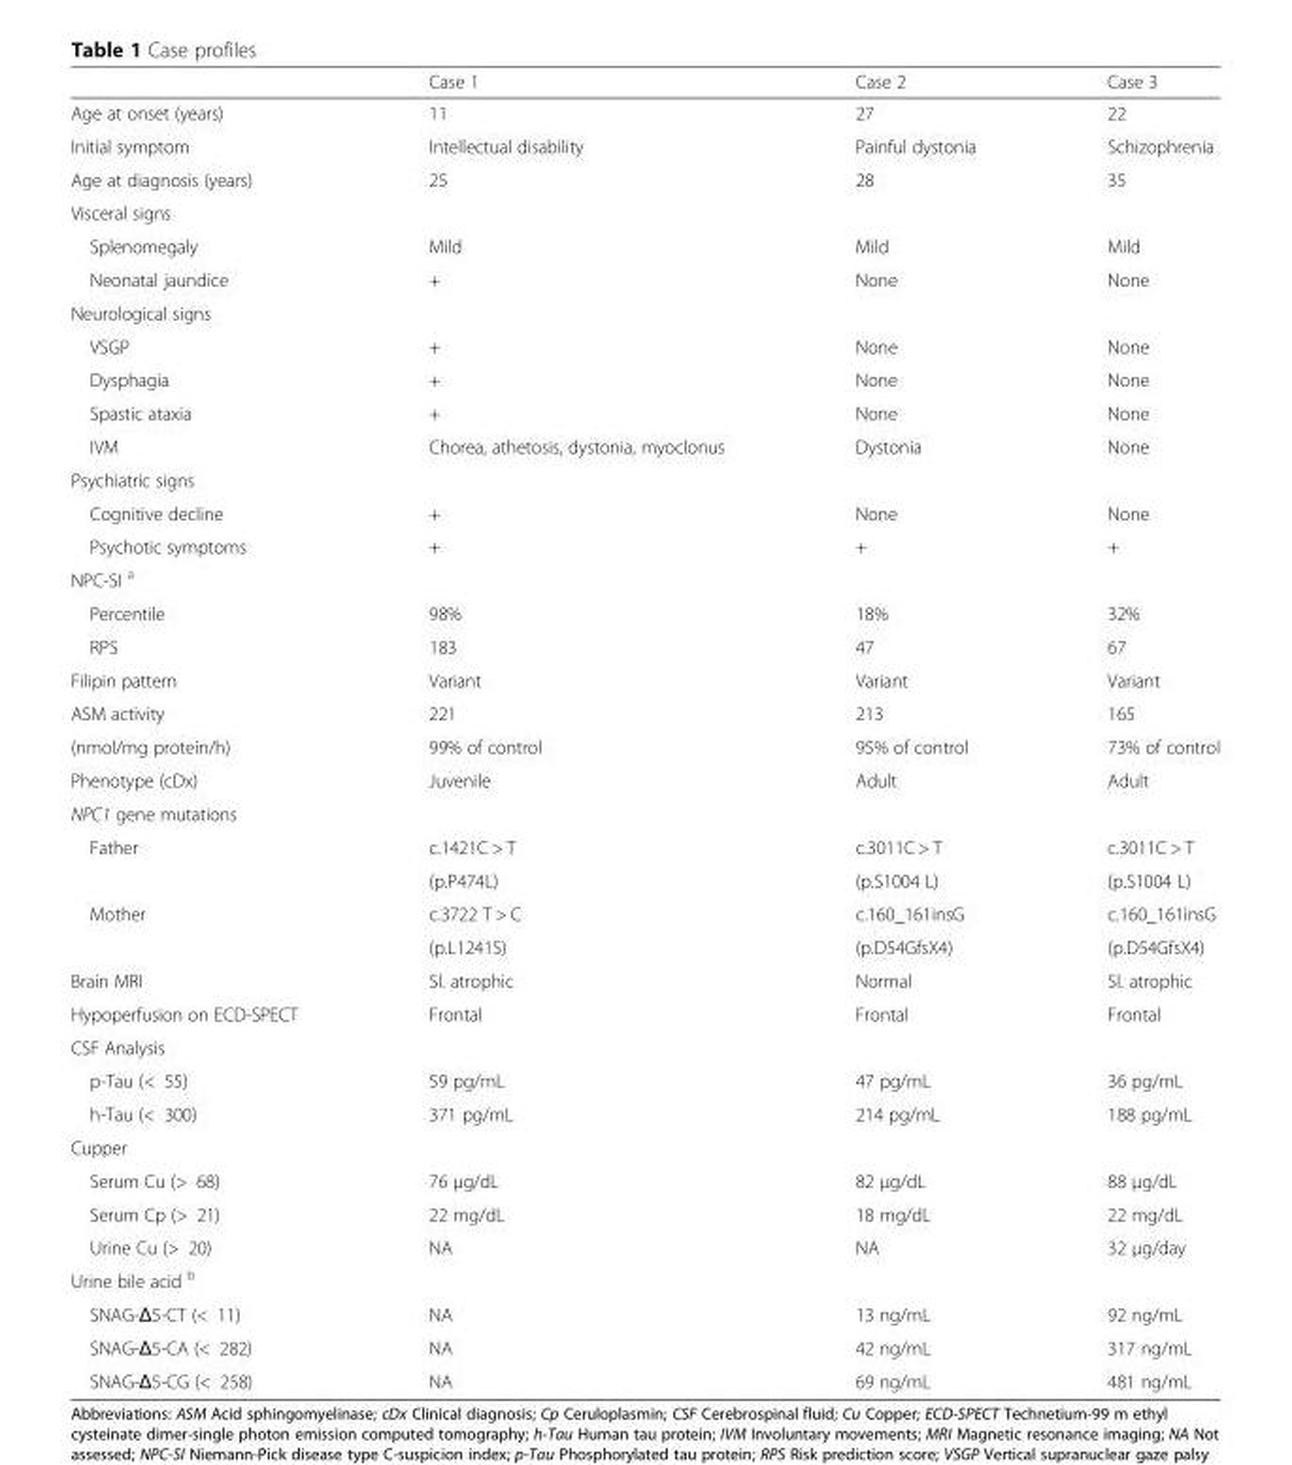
<table><thead><tr><td></td><td>Case 1</td><td>Case 2</td><td>Case 3</td></tr></thead><tbody><tr><td>Age at onset (years)</td><td>11</td><td>27</td><td>22</td></tr><tr><td>Initial symptom</td><td>Intellectual disability</td><td>Painful dystonia</td><td>Schizophrenia</td></tr><tr><td>Age at diagnosis (years)</td><td>25</td><td>28</td><td>35</td></tr><tr><td colspan="4">Visceral signs</td></tr><tr><td>Splenomegaly</td><td>Mild</td><td>Mild</td><td>Mild</td></tr><tr><td>Neonatal jaundice</td><td>+</td><td>None</td><td>None</td></tr><tr><td colspan="4">Neurological signs</td></tr><tr><td>VSGP</td><td>+</td><td>None</td><td>None</td></tr><tr><td>Dysphagia</td><td>+</td><td>None</td><td>None</td></tr><tr><td>Spastic ataxia</td><td>+</td><td>None</td><td>None</td></tr><tr><td>IVM</td><td>Chorea, athetosis, dystonia, myoclonus</td><td>Dystonia</td><td>None</td></tr><tr><td colspan="4">Psychiatric signs</td></tr><tr><td>Cognitive decline</td><td>+</td><td>None</td><td>None</td></tr><tr><td>Psychotic symptoms</td><td>+</td><td>+</td><td>+</td></tr><tr><td colspan="4">NPC-SI <sup>a</sup></td></tr><tr><td>Percentile</td><td>98%</td><td>18%</td><td>32%</td></tr><tr><td>RPS</td><td>183</td><td>47</td><td>67</td></tr><tr><td>Filipin pattern</td><td>Variant</td><td>Variant</td><td>Variant</td></tr><tr><td>ASM activity</td><td>221</td><td>213</td><td>165</td></tr><tr><td>(nmol/mg protein/h)</td><td>99% of control</td><td>95% of control</td><td>73% of control</td></tr><tr><td>Phenotype (cDx)</td><td>Juvenile</td><td>Adult</td><td>Adult</td></tr><tr><td colspan="4">NPC1 gene mutations</td></tr><tr><td rowspan="2">Father</td><td>c.1421C &gt; T</td><td>c.3011C &gt; T</td><td>c.3011C &gt; T</td></tr><tr><td>(p.P474L)</td><td>(p.S1004 L)</td><td>(p.S1004 L)</td></tr><tr><td rowspan="2">Mother</td><td>c.3722 T &gt; C</td><td>c.160_161insG</td><td>c.160_161insG</td></tr><tr><td>(p.L1241S)</td><td>(p.D54GfsX4)</td><td>(p.D54GfsX4)</td></tr><tr><td>Brain MRI</td><td>Sl. atrophic</td><td>Normal</td><td>Sl. atrophic</td></tr><tr><td>Hypoperfusion on ECD-SPECT</td><td>Frontal</td><td>Frontal</td><td>Frontal</td></tr><tr><td colspan="4">CSF Analysis</td></tr><tr><td>p-Tau (&lt; 55)</td><td>59 pg/mL</td><td>47 pg/mL</td><td>36 pg/mL</td></tr><tr><td>h-Tau (&lt; 300)</td><td>371 pg/mL</td><td>214 pg/mL</td><td>188 pg/mL</td></tr><tr><td colspan="4">Cupper</td></tr><tr><td>Serum Cu (&gt; 68)</td><td>76 μg/dL</td><td>82 μg/dL</td><td>88 μg/dL</td></tr><tr><td>Serum Cp (&gt; 21)</td><td>22 mg/dL</td><td>18 mg/dL</td><td>22 mg/dL</td></tr><tr><td>Urine Cu (&gt; 20)</td><td>NA</td><td>NA</td><td>32 μg/day</td></tr><tr><td colspan="4">Urine bile acid <sup>b</sup></td></tr><tr><td>SNAG-Δ5-CT (&lt; 11)</td><td>NA</td><td>13 ng/mL</td><td>92 ng/mL</td></tr><tr><td>SNAG-Δ5-CA (&lt; 282)</td><td>NA</td><td>42 ng/mL</td><td>317 ng/mL</td></tr><tr><td>SNAG-Δ5-CG (&lt; 258)</td><td>NA</td><td>69 ng/mL</td><td>481 ng/mL</td></tr></tbody></table>